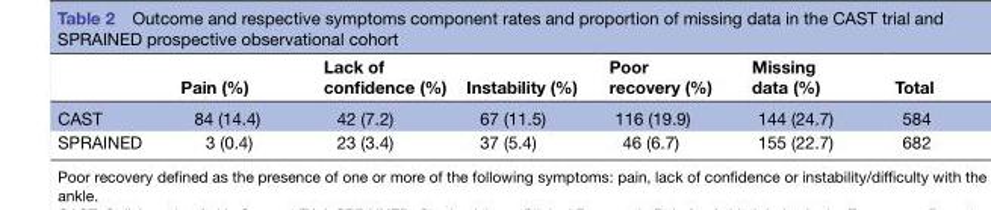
<table><thead><tr><td></td><td>Pain (%)</td><td>Lack of confidence (%)</td><td>Instability (%)</td><td>Poor recovery (%)</td><td>Missing data (%)</td><td>Total</td></tr></thead><tbody><tr><td>CAST</td><td>84 (14.4)</td><td>42 (7.2)</td><td>67 (11.5)</td><td>116 (19.9)</td><td>144 (24.7)</td><td>584</td></tr><tr><td>SPRAINED</td><td>3 (0.4)</td><td>23 (3.4)</td><td>37 (5.4)</td><td>46 (6.7)</td><td>155 (22.7)</td><td>682</td></tr></tbody></table>